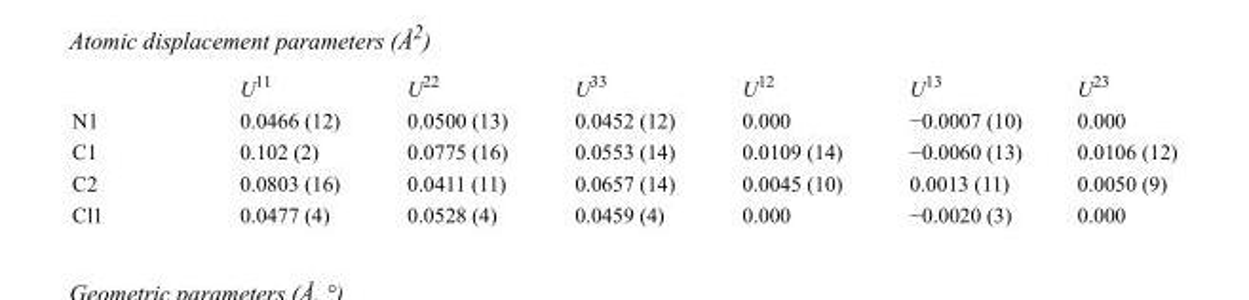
<table><thead><tr><td></td><td>U<sup>11</sup></td><td>U<sup>22</sup></td><td>U<sup>33</sup></td><td>U<sup>12</sup></td><td>U<sup>13</sup></td><td>U<sup>23</sup></td></tr></thead><tbody><tr><td>N1</td><td>0.0466 (12)</td><td>0.0500 (13)</td><td>0.0452 (12)</td><td>0.000</td><td>−0.0007 (10)</td><td>0.000</td></tr><tr><td>C1</td><td>0.102 (2)</td><td>0.0775 (16)</td><td>0.0553 (14)</td><td>0.0109 (14)</td><td>−0.0060 (13)</td><td>0.0106 (12)</td></tr><tr><td>C2</td><td>0.0803 (16)</td><td>0.0411 (11)</td><td>0.0657 (14)</td><td>0.0045 (10)</td><td>0.0013 (11)</td><td>0.0050 (9)</td></tr><tr><td>Cl1</td><td>0.0477 (4)</td><td>0.0528 (4)</td><td>0.0459 (4)</td><td>0.000</td><td>−0.0020 (3)</td><td>0.000</td></tr></tbody></table>